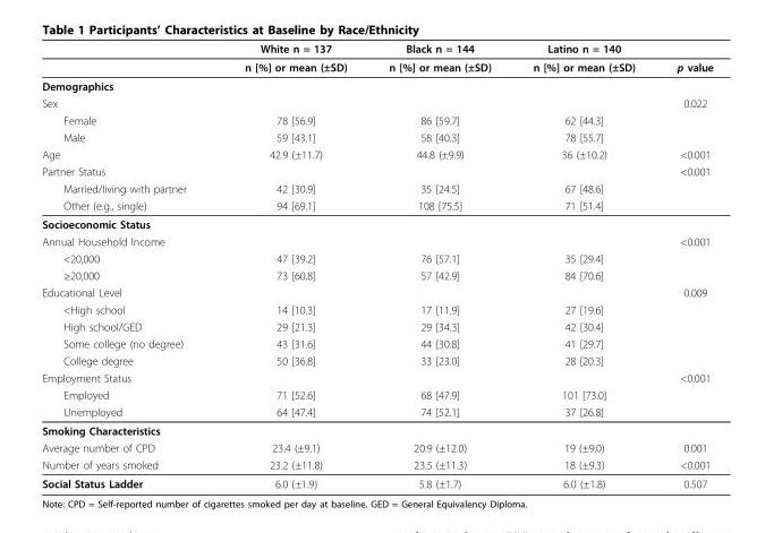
<table><thead><tr><td></td><td>White n = 137</td><td>Black n = 144</td><td>Latino n = 140</td><td></td></tr></thead><tbody><tr><td></td><td>n [%] or mean (±SD)</td><td>n [%] or mean (±SD)</td><td>n [%] or mean (±SD)</td><td>p value</td></tr><tr><td colspan="5">Demographics</td></tr><tr><td>Sex</td><td></td><td></td><td></td><td>0.022</td></tr><tr><td>Female</td><td>78 [56.9]</td><td>86 [59.7]</td><td>62 [44.3]</td><td></td></tr><tr><td>Male</td><td>59 [43.1]</td><td>58 [40.3]</td><td>78 [55.7]</td><td></td></tr><tr><td>Age</td><td>42.9 (±11.7)</td><td>44.8 (±9.9)</td><td>36 (±10.2)</td><td>&lt;0.001</td></tr><tr><td>Partner Status</td><td></td><td></td><td></td><td>&lt;0.001</td></tr><tr><td>Married/living with partner</td><td>42 [30.9]</td><td>35 [24.5]</td><td>67 [48.6]</td><td></td></tr><tr><td>Other (e.g., single)</td><td>94 [69.1]</td><td>108 [75.5]</td><td>71 [51.4]</td><td></td></tr><tr><td colspan="5">Socioeconomic Status</td></tr><tr><td>Annual Household Income</td><td></td><td></td><td></td><td>&lt;0.001</td></tr><tr><td>&lt;20,000</td><td>47 [39.2]</td><td>76 [57.1]</td><td>35 [29.4]</td><td></td></tr><tr><td>≥20,000</td><td>73 [60.8]</td><td>57 [42.9]</td><td>84 [70.6]</td><td></td></tr><tr><td>Educational Level</td><td></td><td></td><td></td><td>0.009</td></tr><tr><td>&lt;High school</td><td>14 [10.3]</td><td>17 [11.9]</td><td>27 [19.6]</td><td></td></tr><tr><td>High school/GED</td><td>29 [21.3]</td><td>29 [34.3]</td><td>42 [30.4]</td><td></td></tr><tr><td>Some college (no degree)</td><td>43 [31.6]</td><td>44 [30.8]</td><td>41 [29.7]</td><td></td></tr><tr><td>College degree</td><td>50 [36.8]</td><td>33 [23.0]</td><td>28 [20.3]</td><td></td></tr><tr><td>Employment Status</td><td></td><td></td><td></td><td>&lt;0.001</td></tr><tr><td>Employed</td><td>71 [52.6]</td><td>68 [47.9]</td><td>101 [73.0]</td><td></td></tr><tr><td>Unemployed</td><td>64 [47.4]</td><td>74 [52.1]</td><td>37 [26.8]</td><td></td></tr><tr><td colspan="5">Smoking Characteristics</td></tr><tr><td>Average number of CPD</td><td>23.4 (±9.1)</td><td>20.9 (±12.0)</td><td>19 (±9.0)</td><td>0.001</td></tr><tr><td>Number of years smoked</td><td>23.2 (±11.8)</td><td>23.5 (±11.3)</td><td>18 (±9.3)</td><td>&lt;0.001</td></tr><tr><td>Social Status Ladder</td><td>6.0 (±1.9)</td><td>5.8 (±1.7)</td><td>6.0 (±1.8)</td><td>0.507</td></tr></tbody></table>